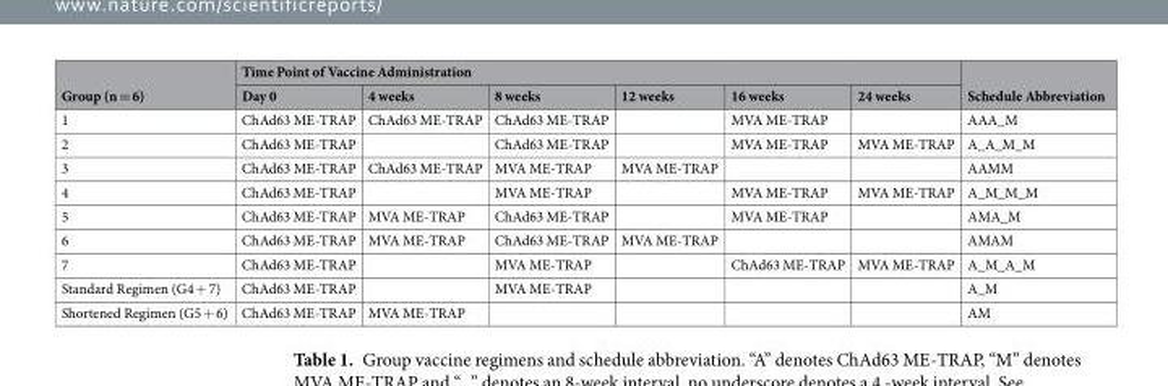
<table><thead><tr><td rowspan="2">Group (n = 6)</td><td colspan="6">Time Point of Vaccine Administration</td><td rowspan="2">Schedule Abbreviation</td></tr><tr><td>Day 0</td><td>4 weeks</td><td>8 weeks</td><td>12 weeks</td><td>16 weeks</td><td>24 weeks</td></tr></thead><tbody><tr><td>1</td><td>ChAd63 ME-TRAP</td><td>ChAd63 ME-TRAP</td><td>ChAd63 ME-TRAP</td><td></td><td>MVA ME-TRAP</td><td></td><td>AAA_M</td></tr><tr><td>2</td><td>ChAd63 ME-TRAP</td><td></td><td>ChAd63 ME-TRAP</td><td></td><td>MVA ME-TRAP</td><td>MVA ME-TRAP</td><td>A_A_M_M</td></tr><tr><td>3</td><td>ChAd63 ME-TRAP</td><td>ChAd63 ME-TRAP</td><td>MVA ME-TRAP</td><td>MVA ME-TRAP</td><td></td><td></td><td>AAMM</td></tr><tr><td>4</td><td>ChAd63 ME-TRAP</td><td></td><td>MVA ME-TRAP</td><td></td><td>MVA ME-TRAP</td><td>MVA ME-TRAP</td><td>A_M_M_M</td></tr><tr><td>5</td><td>ChAd63 ME-TRAP</td><td>MVA ME-TRAP</td><td>ChAd63 ME-TRAP</td><td></td><td>MVA ME-TRAP</td><td></td><td>AMA_M</td></tr><tr><td>6</td><td>ChAd63 ME-TRAP</td><td>MVA ME-TRAP</td><td>ChAd63 ME-TRAP</td><td>MVA ME-TRAP</td><td></td><td></td><td>AMAM</td></tr><tr><td>7</td><td>ChAd63 ME-TRAP</td><td></td><td>MVA ME-TRAP</td><td></td><td>ChAd63 ME-TRAP</td><td>MVA ME-TRAP</td><td>A_M_A_M</td></tr><tr><td>Standard Regimen (G4 + 7)</td><td>ChAd63 ME-TRAP</td><td></td><td>MVA ME-TRAP</td><td></td><td></td><td></td><td>A_M</td></tr><tr><td>Shortened Regimen (G5 + 6)</td><td>ChAd63 ME-TRAP</td><td>MVA ME-TRAP</td><td></td><td></td><td></td><td></td><td>AM</td></tr></tbody></table>